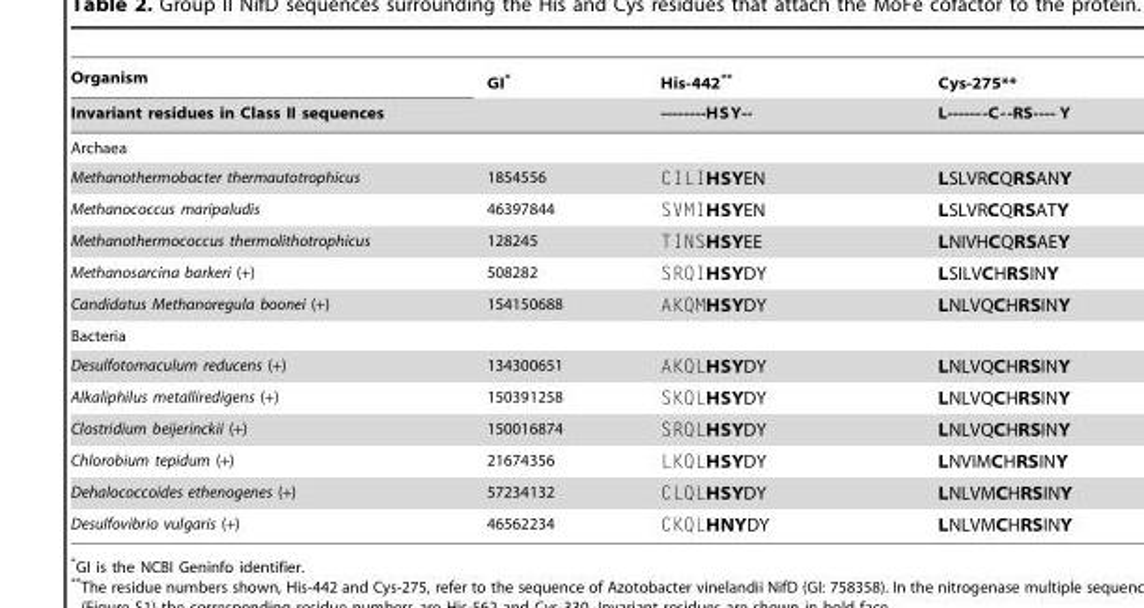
<table><thead><tr><td rowspan="2">Organism Invariant residues in Class II sequences</td><td rowspan="2">GI*</td><td rowspan="2">His-442** --------HSY--</td><td rowspan="2">Cys-275** L-------C--RS---- Y</td></tr><tr></tr></thead><tbody><tr><td colspan="4">Archaea</td></tr><tr><td>Methanothermobacter thermautotrophicus</td><td>1854556</td><td>CILIHSYEN</td><td>LSLVRCQRSANY</td></tr><tr><td>Methanococcus maripaludis</td><td>46397844</td><td>SVMIHSYEN</td><td>LSLVRCQRSATY</td></tr><tr><td>Methanothermococcus thermolithotrophicus</td><td>128245</td><td>TINSHSYEE</td><td>LNIVHCQRSAEY</td></tr><tr><td>Methanosarcina barkeri (+)</td><td>508282</td><td>SRQIHSYDY</td><td>LSILVCHRSINY</td></tr><tr><td>Candidatus Methanoregula boonei (+)</td><td>154150688</td><td>AKQMHSYDY</td><td>LNLVQCHRSINY</td></tr><tr><td colspan="4">Bacteria</td></tr><tr><td>Desulfotomaculum reducens (+)</td><td>134300651</td><td>AKQLHSYDY</td><td>LNLVQCHRSINY</td></tr><tr><td>Alkaliphilus metalliredigens (+)</td><td>150391258</td><td>SKQLHSYDY</td><td>LNLVQCHRSINY</td></tr><tr><td>Clostridium beijerinckii (+)</td><td>150016874</td><td>SRQLHSYDY</td><td>LNLVQCHRSINY</td></tr><tr><td>Chlorobium tepidum (+)</td><td>21674356</td><td>LKQLHSYDY</td><td>LNVIMCHRSINY</td></tr><tr><td>Dehalococcoides ethenogenes (+)</td><td>57234132</td><td>CLQLHSYDY</td><td>LNLVMCHRSINY</td></tr><tr><td>Desulfovibrio vulgaris (+)</td><td>46562234</td><td>CKQLHNYDY</td><td>LNLVMCHRSINY</td></tr></tbody></table>